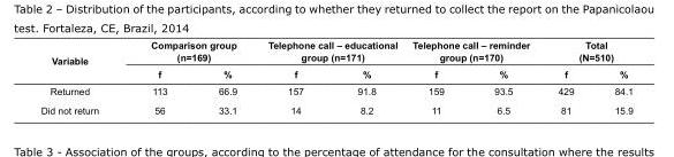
<table><tbody><tr><td rowspan="2">Variable</td><td colspan="2">Comparison group (n=169)</td><td colspan="2">Telephone call – educational group (n=171)</td><td colspan="2">Telephone call – reminder group (n=170)</td><td colspan="2">Total (N=510)</td></tr><tr><td>f</td><td>%</td><td>f</td><td>%</td><td>f</td><td>%</td><td>f</td><td>%</td></tr><tr><td>Returned</td><td>113</td><td>66.9</td><td>157</td><td>91.8</td><td>159</td><td>93.5</td><td>429</td><td>84.1</td></tr><tr><td>Did not return</td><td>56</td><td>33.1</td><td>14</td><td>8.2</td><td>11</td><td>6.5</td><td>81</td><td>15.9</td></tr></tbody></table>